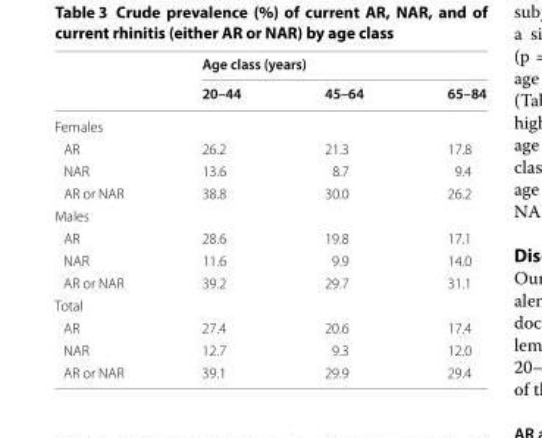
<table><thead><tr><td rowspan="2"></td><td colspan="3">Age class (years)</td></tr><tr><td>20–44</td><td>45–64</td><td>65–84</td></tr></thead><tbody><tr><td colspan="4">Females</td></tr><tr><td>AR</td><td>26.2</td><td>21.3</td><td>17.8</td></tr><tr><td>NAR</td><td>13.6</td><td>8.7</td><td>9.4</td></tr><tr><td>AR or NAR</td><td>38.8</td><td>30.0</td><td>26.2</td></tr><tr><td colspan="4">Males</td></tr><tr><td>AR</td><td>28.6</td><td>19.8</td><td>17.1</td></tr><tr><td>NAR</td><td>11.6</td><td>9.9</td><td>14.0</td></tr><tr><td>AR or NAR</td><td>39.2</td><td>29.7</td><td>31.1</td></tr><tr><td colspan="4">Total</td></tr><tr><td>AR</td><td>27.4</td><td>20.6</td><td>17.4</td></tr><tr><td>NAR</td><td>12.7</td><td>9.3</td><td>12.0</td></tr><tr><td>AR or NAR</td><td>39.1</td><td>29.9</td><td>29.4</td></tr></tbody></table>